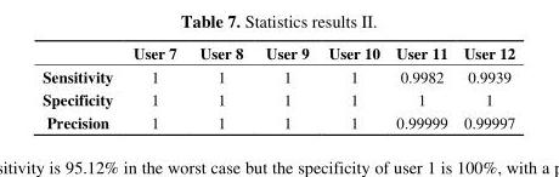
<table><thead><tr><td></td><td>User 7</td><td>User 8</td><td>User 9</td><td>User 10</td><td>User 11</td><td>User 12</td></tr></thead><tbody><tr><td>Sensitivity</td><td>1</td><td>1</td><td>1</td><td>1</td><td>0.9982</td><td>0.9939</td></tr><tr><td>Specificity</td><td>1</td><td>1</td><td>1</td><td>1</td><td>1</td><td>1</td></tr><tr><td>Precision</td><td>1</td><td>1</td><td>1</td><td>1</td><td>0.99999</td><td>0.99997</td></tr></tbody></table>